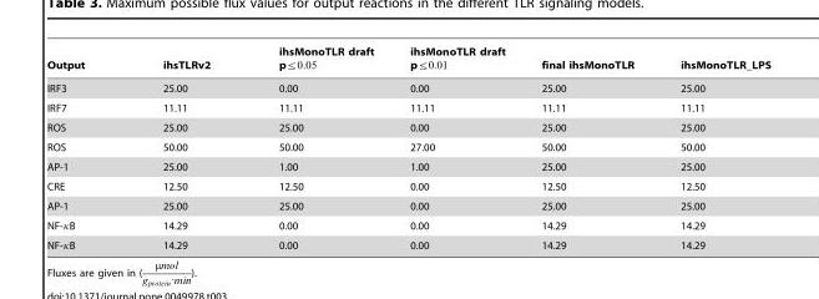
<table><thead><tr><td>Output</td><td>ihsTLRv2</td><td>ihsMonoTLR draft pƒ0:05</td><td>ihsMonoTLR draft pƒ0:01</td><td>final ihsMonoTLR</td><td>ihsMonoTLR_LPS</td></tr></thead><tbody><tr><td>IRF3</td><td>25.00</td><td>0.00</td><td>0.00</td><td>25.00</td><td>25.00</td></tr><tr><td>IRF7</td><td>11.11</td><td>11.11</td><td>11.11</td><td>11.11</td><td>11.11</td></tr><tr><td>ROS</td><td>25.00</td><td>25.00</td><td>0.00</td><td>25.00</td><td>25.00</td></tr><tr><td>ROS</td><td>50.00</td><td>50.00</td><td>27.00</td><td>50.00</td><td>50.00</td></tr><tr><td>AP-1</td><td>25.00</td><td>1.00</td><td>1.00</td><td>25.00</td><td>25.00</td></tr><tr><td>CRE</td><td>12.50</td><td>12.50</td><td>0.00</td><td>12.50</td><td>12.50</td></tr><tr><td>AP-1</td><td>25.00</td><td>25.00</td><td>0.00</td><td>25.00</td><td>25.00</td></tr><tr><td>NF-kB</td><td>14.29</td><td>0.00</td><td>0.00</td><td>14.29</td><td>14.29</td></tr><tr><td>NF-kB</td><td>14.29</td><td>0.00</td><td>0.00</td><td>14.29</td><td>14.29</td></tr></tbody></table>